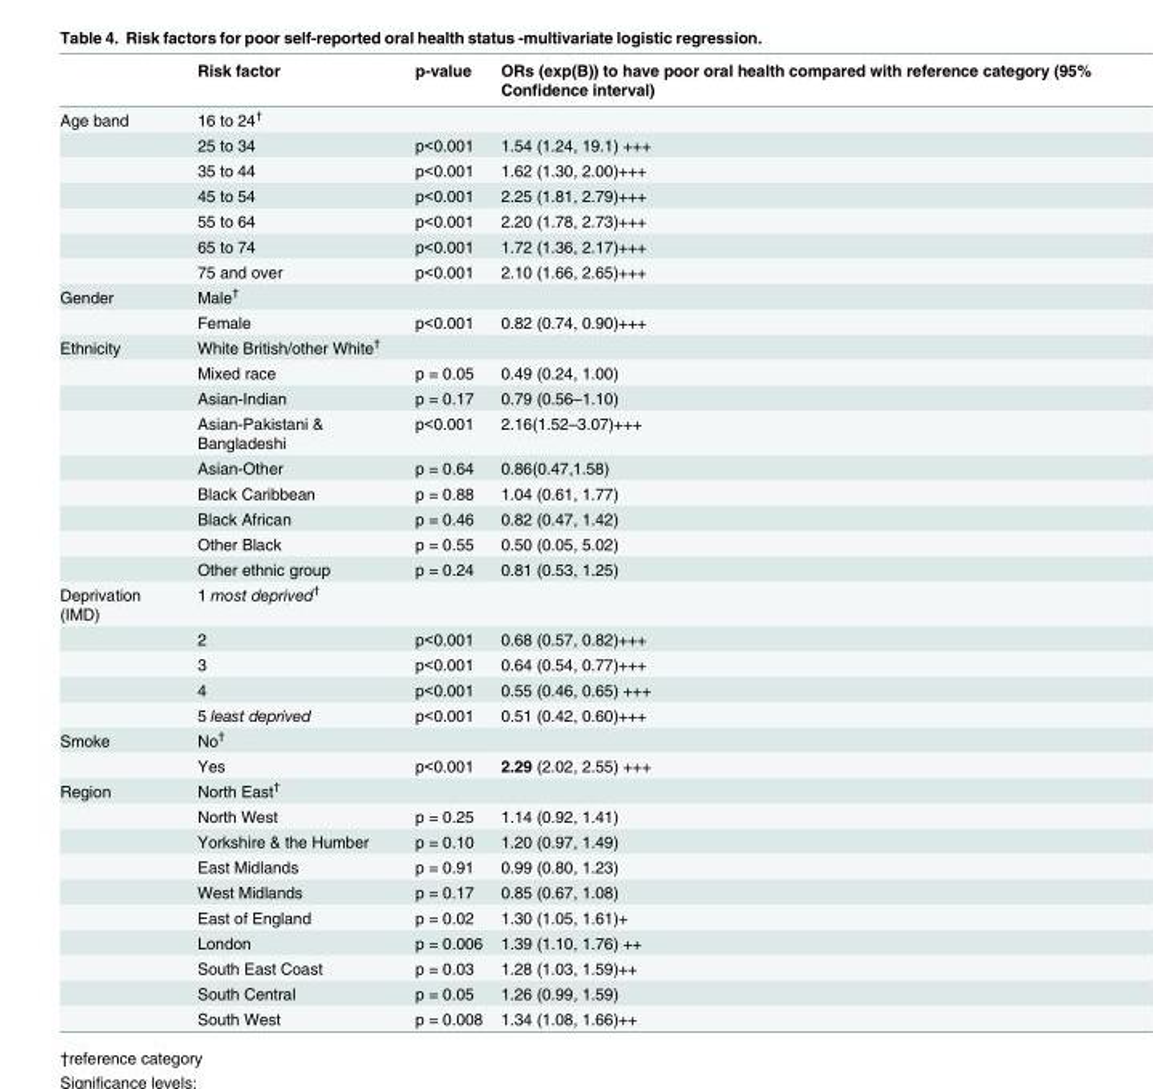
<table><thead><tr><td></td><td>Risk factor</td><td>p-value</td><td>ORs (exp(B)) to have poor oral health compared with reference category (95% Confidence interval)</td></tr></thead><tbody><tr><td rowspan="7">Age band</td><td>16 to 24<sup>†</sup></td><td></td><td></td></tr><tr><td>25 to 34</td><td>p&lt;0.001</td><td>1.54 (1.24, 19.1) +++</td></tr><tr><td>35 to 44</td><td>p&lt;0.001</td><td>1.62 (1.30, 2.00)+++</td></tr><tr><td>45 to 54</td><td>p&lt;0.001</td><td>2.25 (1.81, 2.79)+++</td></tr><tr><td>55 to 64</td><td>p&lt;0.001</td><td>2.20 (1.78, 2.73)+++</td></tr><tr><td>65 to 74</td><td>p&lt;0.001</td><td>1.72 (1.36, 2.17)+++</td></tr><tr><td>75 and over</td><td>p&lt;0.001</td><td>2.10 (1.66, 2.65)+++</td></tr><tr><td rowspan="2">Gender</td><td>Male<sup>†</sup></td><td></td><td></td></tr><tr><td>Female</td><td>p&lt;0.001</td><td>0.82 (0.74, 0.90)+++</td></tr><tr><td rowspan="9">Ethnicity</td><td>White British/other White<sup>†</sup></td><td></td><td></td></tr><tr><td>Mixed race</td><td>p = 0.05</td><td>0.49 (0.24, 1.00)</td></tr><tr><td>Asian-Indian</td><td>p = 0.17</td><td>0.79 (0.56–1.10)</td></tr><tr><td>Asian-Pakistani &amp; Bangladeshi</td><td>p&lt;0.001</td><td>2.16(1.52–3.07)+++</td></tr><tr><td>Asian-Other</td><td>p = 0.64</td><td>0.86(0.47,1.58)</td></tr><tr><td>Black Caribbean</td><td>p = 0.88</td><td>1.04 (0.61, 1.77)</td></tr><tr><td>Black African</td><td>p = 0.46</td><td>0.82 (0.47, 1.42)</td></tr><tr><td>Other Black</td><td>p = 0.55</td><td>0.50 (0.05, 5.02)</td></tr><tr><td>Other ethnic group</td><td>p = 0.24</td><td>0.81 (0.53, 1.25)</td></tr><tr><td rowspan="5">Deprivation (IMD)</td><td>1 most deprived<sup>†</sup></td><td></td><td></td></tr><tr><td>2</td><td>p&lt;0.001</td><td>0.68 (0.57, 0.82)+++</td></tr><tr><td>3</td><td>p&lt;0.001</td><td>0.64 (0.54, 0.77)+++</td></tr><tr><td>4</td><td>p&lt;0.001</td><td>0.55 (0.46, 0.65) +++</td></tr><tr><td>5 least deprived</td><td>p&lt;0.001</td><td>0.51 (0.42, 0.60)+++</td></tr><tr><td rowspan="2">Smoke</td><td>No<sup>†</sup></td><td></td><td></td></tr><tr><td>Yes</td><td>p&lt;0.001</td><td>2.29 (2.02, 2.55) +++</td></tr><tr><td rowspan="10">Region</td><td>North East<sup>†</sup></td><td></td><td></td></tr><tr><td>North West</td><td>p = 0.25</td><td>1.14 (0.92, 1.41)</td></tr><tr><td>Yorkshire &amp; the Humber</td><td>p = 0.10</td><td>1.20 (0.97, 1.49)</td></tr><tr><td>East Midlands</td><td>p = 0.91</td><td>0.99 (0.80, 1.23)</td></tr><tr><td>West Midlands</td><td>p = 0.17</td><td>0.85 (0.67, 1.08)</td></tr><tr><td>East of England</td><td>p = 0.02</td><td>1.30 (1.05, 1.61)+</td></tr><tr><td>London</td><td>p = 0.006</td><td>1.39 (1.10, 1.76) ++</td></tr><tr><td>South East Coast</td><td>p = 0.03</td><td>1.28 (1.03, 1.59)++</td></tr><tr><td>South Central</td><td>p = 0.05</td><td>1.26 (0.99, 1.59)</td></tr><tr><td>South West</td><td>p = 0.008</td><td>1.34 (1.08, 1.66)++</td></tr></tbody></table>